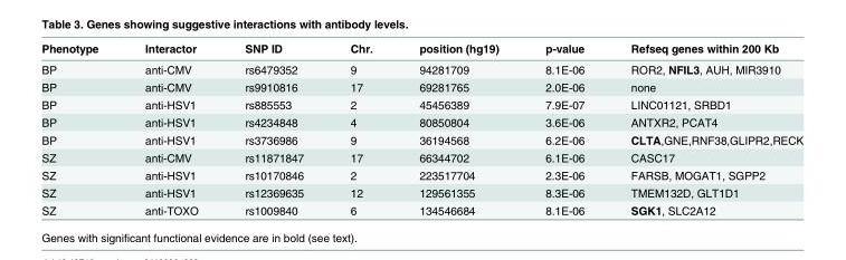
<table><thead><tr><td>Phenotype</td><td>Interactor</td><td>SNP ID</td><td>Chr.</td><td>position (hg19)</td><td>p-value</td><td>Refseq genes within 200 Kb</td></tr></thead><tbody><tr><td>BP</td><td>anti-CMV</td><td>rs6479352</td><td>9</td><td>94281709</td><td>8.1E-06</td><td>ROR2, NFIL3, AUH, MIR3910</td></tr><tr><td>BP</td><td>anti-CMV</td><td>rs9910816</td><td>17</td><td>69281765</td><td>2.0E-06</td><td>none</td></tr><tr><td>BP</td><td>anti-HSV1</td><td>rs885553</td><td>2</td><td>45456389</td><td>7.9E-07</td><td>LINC01121, SRBD1</td></tr><tr><td>BP</td><td>anti-HSV1</td><td>rs4234848</td><td>4</td><td>80850804</td><td>3.6E-06</td><td>ANTXR2, PCAT4</td></tr><tr><td>BP</td><td>anti-HSV1</td><td>rs3736986</td><td>9</td><td>36194568</td><td>6.2E-06</td><td>CLTA,GNE,RNF38,GLIPR2,RECK</td></tr><tr><td>SZ</td><td>anti-CMV</td><td>rs11871847</td><td>17</td><td>66344702</td><td>6.1E-06</td><td>CASC17</td></tr><tr><td>SZ</td><td>anti-HSV1</td><td>rs10170846</td><td>2</td><td>223517704</td><td>2.3E-06</td><td>FARSB, MOGAT1, SGPP2</td></tr><tr><td>SZ</td><td>anti-HSV1</td><td>rs12369635</td><td>12</td><td>129561355</td><td>8.3E-06</td><td>TMEM132D, GLT1D1</td></tr><tr><td>SZ</td><td>anti-TOXO</td><td>rs1009840</td><td>6</td><td>134546684</td><td>8.1E-06</td><td>SGK1, SLC2A12</td></tr></tbody></table>